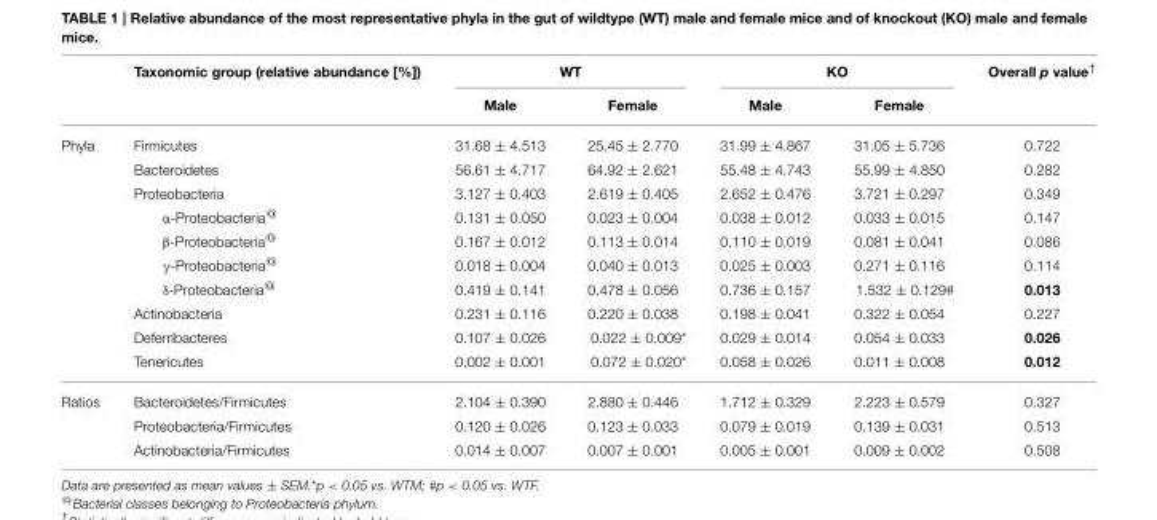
<table><thead><tr><td rowspan="2"></td><td rowspan="2">Taxonomic group (relative abundance [%])</td><td colspan="2">WT</td><td colspan="2">KO</td><td rowspan="2">Overall p value<sup>†</sup></td></tr><tr><td>Male</td><td>Female</td><td>Male</td><td>Female</td></tr></thead><tbody><tr><td rowspan="10">Phyla</td><td>Firmicutes</td><td>31.68 ± 4.513</td><td>25.45 ± 2.770</td><td>31.99 ± 4.867</td><td>31.05 ± 5.736</td><td>0.722</td></tr><tr><td>Bacteroidetes</td><td>56.61 ± 4.717</td><td>64.92 ± 2.621</td><td>55.48 ± 4.743</td><td>55.99 ± 4.850</td><td>0.282</td></tr><tr><td>Proteobacteria</td><td>3.127 ± 0.403</td><td>2.619 ± 0.405</td><td>2.652 ± 0.476</td><td>3.721 ± 0.297</td><td>0.349</td></tr><tr><td>α-Proteobacteria<sup>@</sup></td><td>0.131 ± 0.050</td><td>0.023 ± 0.004</td><td>0.038 ± 0.012</td><td>0.033 ± 0.015</td><td>0.147</td></tr><tr><td>β-Proteobacteria<sup>@</sup></td><td>0.167 ± 0.012</td><td>0.113 ± 0.014</td><td>0.110 ± 0.019</td><td>0.081 ± 0.041</td><td>0.086</td></tr><tr><td>γ-Proteobacteria<sup>@</sup></td><td>0.018 ± 0.004</td><td>0.040 ± 0.013</td><td>0.025 ± 0.003</td><td>0.271 ± 0.116</td><td>0.114</td></tr><tr><td>δ-Proteobacteria<sup>@</sup></td><td>0.419 ± 0.141</td><td>0.478 ± 0.056</td><td>0.736 ± 0.157</td><td>1.532 ± 0.129<sup>#</sup></td><td>0.013</td></tr><tr><td>Actinobacteria</td><td>0.231 ± 0.116</td><td>0.220 ± 0.038</td><td>0.198 ± 0.041</td><td>0.322 ± 0.054</td><td>0.227</td></tr><tr><td>Deferribacteres</td><td>0.107 ± 0.026</td><td>0.022 ± 0.009*</td><td>0.029 ± 0.014</td><td>0.054 ± 0.033</td><td>0.026</td></tr><tr><td>Tenericutes</td><td>0.002 ± 0.001</td><td>0.072 ± 0.020*</td><td>0.058 ± 0.026</td><td>0.011 ± 0.008</td><td>0.012</td></tr><tr><td rowspan="3">Ratios</td><td>Bacteroidetes/Firmicutes</td><td>2.104 ± 0.390</td><td>2.880 ± 0.446</td><td>1.712 ± 0.329</td><td>2.223 ± 0.579</td><td>0.327</td></tr><tr><td>Proteobacteria/Firmicutes</td><td>0.120 ± 0.026</td><td>0.123 ± 0.033</td><td>0.079 ± 0.019</td><td>0.139 ± 0.031</td><td>0.513</td></tr><tr><td>Actinobacteria/Firmicutes</td><td>0.014 ± 0.007</td><td>0.007 ± 0.001</td><td>0.005 ± 0.001</td><td>0.009 ± 0.002</td><td>0.508</td></tr></tbody></table>